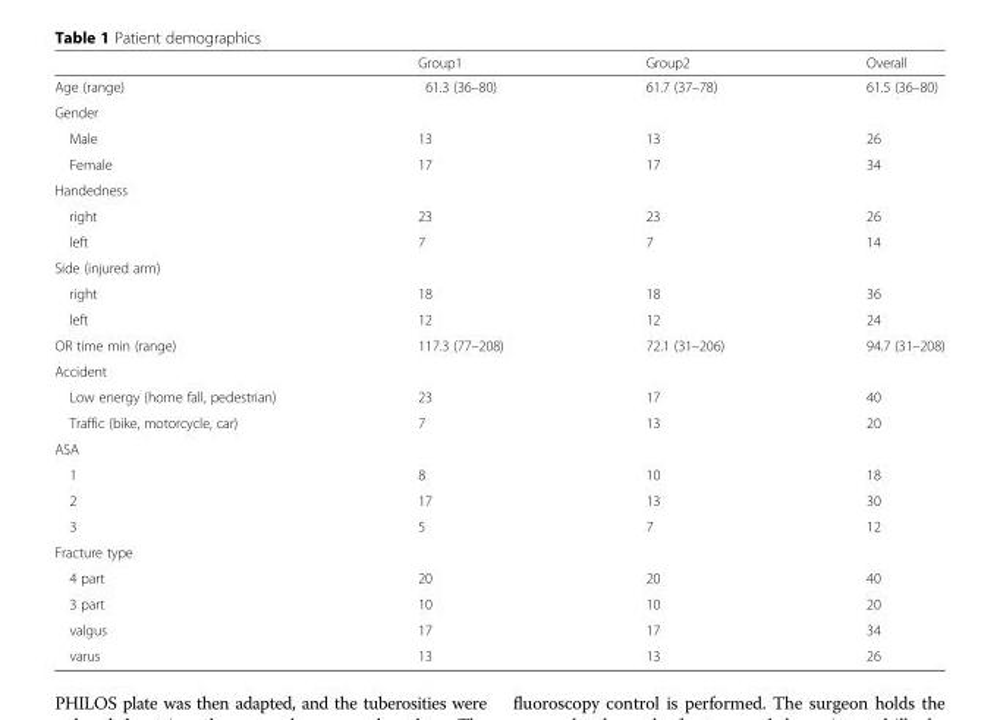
<table><thead><tr><td></td><td>Group1</td><td>Group2</td><td>Overall</td></tr></thead><tbody><tr><td>Age (range)</td><td>61.3 (36–80)</td><td>61.7 (37–78)</td><td>61.5 (36–80)</td></tr><tr><td colspan="4">Gender</td></tr><tr><td>Male</td><td>13</td><td>13</td><td>26</td></tr><tr><td>Female</td><td>17</td><td>17</td><td>34</td></tr><tr><td colspan="4">Handedness</td></tr><tr><td>right</td><td>23</td><td>23</td><td>26</td></tr><tr><td>left</td><td>7</td><td>7</td><td>14</td></tr><tr><td colspan="4">Side (injured arm)</td></tr><tr><td>right</td><td>18</td><td>18</td><td>36</td></tr><tr><td>left</td><td>12</td><td>12</td><td>24</td></tr><tr><td>OR time min (range)</td><td>117.3 (77–208)</td><td>72.1 (31–206)</td><td>94.7 (31–208)</td></tr><tr><td colspan="4">Accident</td></tr><tr><td>Low energy (home fall, pedestrian)</td><td>23</td><td>17</td><td>40</td></tr><tr><td>Traffic (bike, motorcycle, car)</td><td>7</td><td>13</td><td>20</td></tr><tr><td colspan="4">ASA</td></tr><tr><td>1</td><td>8</td><td>10</td><td>18</td></tr><tr><td>2</td><td>17</td><td>13</td><td>30</td></tr><tr><td>3</td><td>5</td><td>7</td><td>12</td></tr><tr><td colspan="4">Fracture type</td></tr><tr><td>4 part</td><td>20</td><td>20</td><td>40</td></tr><tr><td>3 part</td><td>10</td><td>10</td><td>20</td></tr><tr><td>valgus</td><td>17</td><td>17</td><td>34</td></tr><tr><td>varus</td><td>13</td><td>13</td><td>26</td></tr></tbody></table>